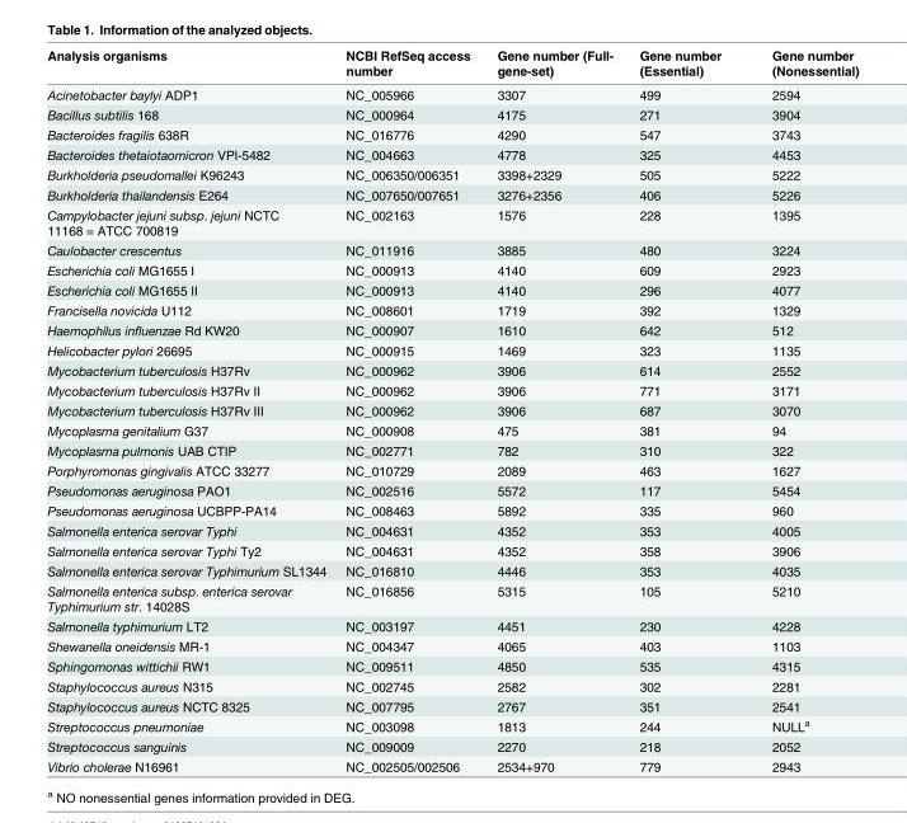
<table><thead><tr><td>Analysis organisms</td><td>NCBI RefSeq access number</td><td>Gene number (Full- gene-set)</td><td>Gene number (Essential)</td><td>Gene number (Nonessential)</td></tr></thead><tbody><tr><td>Acinetobacter baylyi ADP1</td><td>NC_005966</td><td>3307</td><td>499</td><td>2594</td></tr><tr><td>Bacillus subtilis 168</td><td>NC_000964</td><td>4175</td><td>271</td><td>3904</td></tr><tr><td>Bacteroides fragilis 638R</td><td>NC_016776</td><td>4290</td><td>547</td><td>3743</td></tr><tr><td>Bacteroides thetaiotaomicron VPI-5482</td><td>NC_004663</td><td>4778</td><td>325</td><td>4453</td></tr><tr><td>Burkholderia pseudomallei K96243</td><td>NC_006350/006351</td><td>3398+2329</td><td>505</td><td>5222</td></tr><tr><td>Burkholderia thailandensis E264</td><td>NC_007650/007651</td><td>3276+2356</td><td>406</td><td>5226</td></tr><tr><td>Campylobacter jejuni subsp. jejuni NCTC 11168 = ATCC 700819</td><td>NC_002163</td><td>1576</td><td>228</td><td>1395</td></tr><tr><td>Caulobacter crescentus</td><td>NC_011916</td><td>3885</td><td>480</td><td>3224</td></tr><tr><td>Escherichia coli MG1655 I</td><td>NC_000913</td><td>4140</td><td>609</td><td>2923</td></tr><tr><td>Escherichia coli MG1655 II</td><td>NC_000913</td><td>4140</td><td>296</td><td>4077</td></tr><tr><td>Francisella novicida U112</td><td>NC_008601</td><td>1719</td><td>392</td><td>1329</td></tr><tr><td>Haemophilus influenzae Rd KW20</td><td>NC_000907</td><td>1610</td><td>642</td><td>512</td></tr><tr><td>Helicobacter pylori 26695</td><td>NC_000915</td><td>1469</td><td>323</td><td>1135</td></tr><tr><td>Mycobacterium tuberculosis H37Rv</td><td>NC_000962</td><td>3906</td><td>614</td><td>2552</td></tr><tr><td>Mycobacterium tuberculosis H37Rv II</td><td>NC_000962</td><td>3906</td><td>771</td><td>3171</td></tr><tr><td>Mycobacterium tuberculosis H37Rv III</td><td>NC_000962</td><td>3906</td><td>687</td><td>3070</td></tr><tr><td>Mycoplasma genitalium G37</td><td>NC_000908</td><td>475</td><td>381</td><td>94</td></tr><tr><td>Mycoplasma pulmonis UAB CTIP</td><td>NC_002771</td><td>782</td><td>310</td><td>322</td></tr><tr><td>Porphyromonas gingivalis ATCC 33277</td><td>NC_010729</td><td>2089</td><td>463</td><td>1627</td></tr><tr><td>Pseudomonas aeruginosa PAO1</td><td>NC_002516</td><td>5572</td><td>117</td><td>5454</td></tr><tr><td>Pseudomonas aeruginosa UCBPP-PA14</td><td>NC_008463</td><td>5892</td><td>335</td><td>960</td></tr><tr><td>Salmonella enterica serovar Typhi</td><td>NC_004631</td><td>4352</td><td>353</td><td>4005</td></tr><tr><td>Salmonella enterica serovar Typhi Ty2</td><td>NC_004631</td><td>4352</td><td>358</td><td>3906</td></tr><tr><td>Salmonella enterica serovar Typhimurium SL1344</td><td>NC_016810</td><td>4446</td><td>353</td><td>4035</td></tr><tr><td>Salmonella enterica subsp. enterica serovar Typhimurium str. 14028S</td><td>NC_016856</td><td>5315</td><td>105</td><td>5210</td></tr><tr><td>Salmonella typhimurium LT2</td><td>NC_003197</td><td>4451</td><td>230</td><td>4228</td></tr><tr><td>Shewanella oneidensis MR-1</td><td>NC_004347</td><td>4065</td><td>403</td><td>1103</td></tr><tr><td>Sphingomonas wittichii RW1</td><td>NC_009511</td><td>4850</td><td>535</td><td>4315</td></tr><tr><td>Staphylococcus aureus N315</td><td>NC_002745</td><td>2582</td><td>302</td><td>2281</td></tr><tr><td>Staphylococcus aureus NCTC 8325</td><td>NC_007795</td><td>2767</td><td>351</td><td>2541</td></tr><tr><td>Streptococcus pneumoniae</td><td>NC_003098</td><td>1813</td><td>244</td><td>NULL<sup>a</sup></td></tr><tr><td>Streptococcus sanguinis</td><td>NC_009009</td><td>2270</td><td>218</td><td>2052</td></tr><tr><td>Vibrio cholerae N16961</td><td>NC_002505/002506</td><td>2534+970</td><td>779</td><td>2943</td></tr></tbody></table>